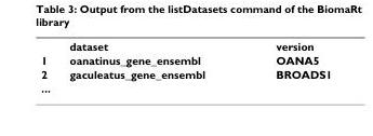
<table><thead><tr><td></td><td>dataset</td><td>version</td></tr></thead><tbody><tr><td>1</td><td>oanatinus_gene_ensembl</td><td>OANA5</td></tr><tr><td>2</td><td>gaculeatus_gene_ensembl</td><td>BROADS1</td></tr><tr><td>...</td><td></td><td></td></tr></tbody></table>